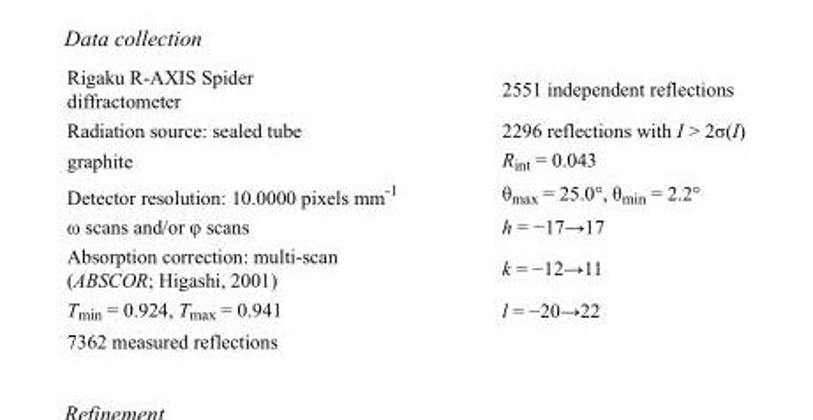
<table><tbody><tr><td>Rigaku R-AXIS Spider diffractometer</td><td>2551 independent reflections</td></tr><tr><td>Radiation source: sealed tube</td><td>2296 reflections with I &gt; 2σ(I)</td></tr><tr><td>graphite</td><td>R<sub>int</sub> = 0.043</td></tr><tr><td>Detector resolution: 10.0000 pixels mm<sup>-1</sup></td><td>θ<sub>max</sub> = 25.0°, θ<sub>min</sub> = 2.2°</td></tr><tr><td>ω scans and/or φ scans</td><td>h = −17→17</td></tr><tr><td>Absorption correction: multi-scan (ABSCOR; Higashi, 2001)</td><td>k = −12→11</td></tr><tr><td>T<sub>min</sub> = 0.924, T<sub>max</sub> = 0.941</td><td>l = −20→22</td></tr><tr><td>7362 measured reflections</td><td></td></tr></tbody></table>